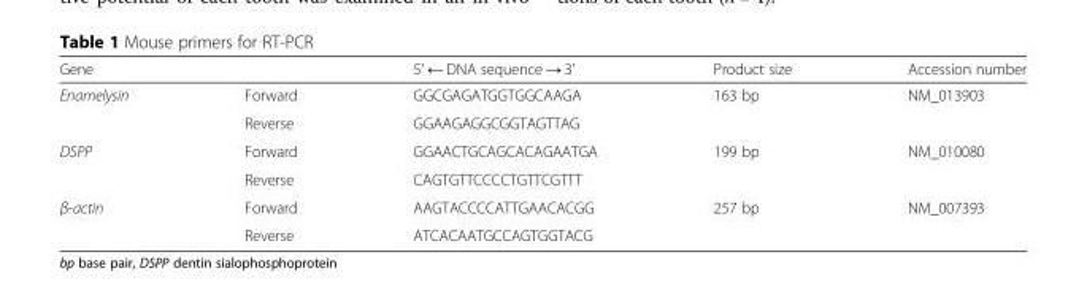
<table><thead><tr><td>Gene</td><td></td><td>5&#x27; ← DNA sequence → 3&#x27;</td><td>Product size</td><td>Accession number</td></tr></thead><tbody><tr><td rowspan="2">Enamelysin</td><td>Forward</td><td>GGCGAGATGGTGGCAAGA</td><td rowspan="2">163 bp</td><td rowspan="2">NM_013903</td></tr><tr><td>Reverse</td><td>GGAAGAGGCGGTAGTTAG</td></tr><tr><td rowspan="2">DSPP</td><td>Forward</td><td>GGAACTGCAGCACAGAATGA</td><td rowspan="2">199 bp</td><td rowspan="2">NM_010080</td></tr><tr><td>Reverse</td><td>CAGTGTTCCCCTGTTCGTTT</td></tr><tr><td rowspan="2">β-actin</td><td>Forward</td><td>AAGTACCCCATTGAACACGG</td><td rowspan="2">257 bp</td><td rowspan="2">NM_007393</td></tr><tr><td>Reverse</td><td>ATCACAATGCCAGTGGTACG</td></tr></tbody></table>